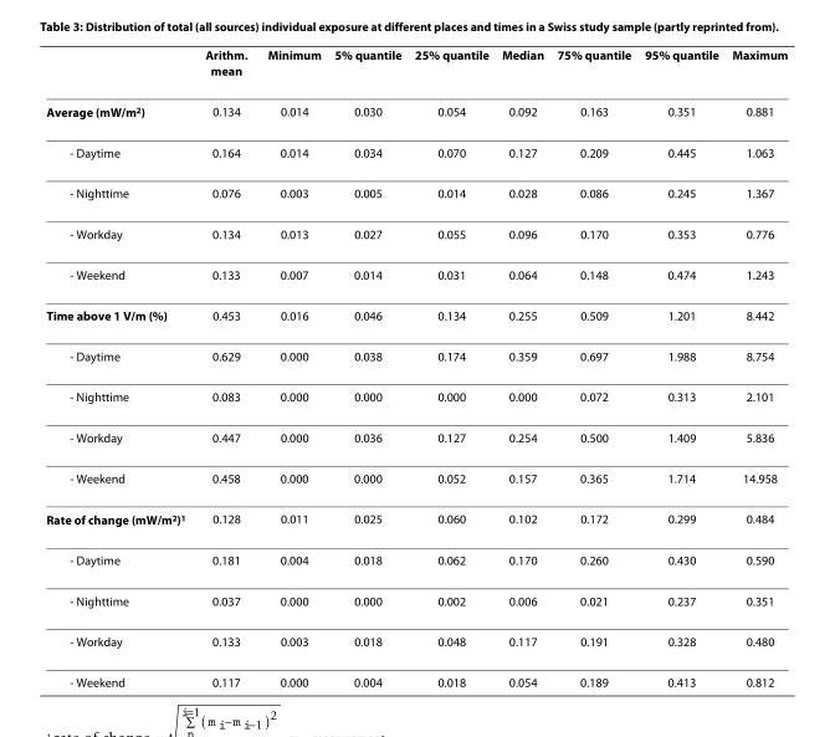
<table><thead><tr><td></td><td>Arithm. mean</td><td>Minimum</td><td>5% quantile</td><td>25% quantile</td><td>Median</td><td>75% quantile</td><td>95% quantile</td><td>Maximum</td></tr></thead><tbody><tr><td>Average (mW/m2)</td><td>0.134</td><td>0.014</td><td>0.030</td><td>0.054</td><td>0.092</td><td>0.163</td><td>0.351</td><td>0.881</td></tr><tr><td>- Daytime</td><td>0.164</td><td>0.014</td><td>0.034</td><td>0.070</td><td>0.127</td><td>0.209</td><td>0.445</td><td>1.063</td></tr><tr><td>- Nighttime</td><td>0.076</td><td>0.003</td><td>0.005</td><td>0.014</td><td>0.028</td><td>0.086</td><td>0.245</td><td>1.367</td></tr><tr><td>- Workday</td><td>0.134</td><td>0.013</td><td>0.027</td><td>0.055</td><td>0.096</td><td>0.170</td><td>0.353</td><td>0.776</td></tr><tr><td>- Weekend</td><td>0.133</td><td>0.007</td><td>0.014</td><td>0.031</td><td>0.064</td><td>0.148</td><td>0.474</td><td>1.243</td></tr><tr><td>Time above 1 V/m (%)</td><td>0.453</td><td>0.016</td><td>0.046</td><td>0.134</td><td>0.255</td><td>0.509</td><td>1.201</td><td>8.442</td></tr><tr><td>- Daytime</td><td>0.629</td><td>0.000</td><td>0.038</td><td>0.174</td><td>0.359</td><td>0.697</td><td>1.988</td><td>8.754</td></tr><tr><td>- Nighttime</td><td>0.083</td><td>0.000</td><td>0.000</td><td>0.000</td><td>0.000</td><td>0.072</td><td>0.313</td><td>2.101</td></tr><tr><td>- Workday</td><td>0.447</td><td>0.000</td><td>0.036</td><td>0.127</td><td>0.254</td><td>0.500</td><td>1.409</td><td>5.836</td></tr><tr><td>- Weekend</td><td>0.458</td><td>0.000</td><td>0.000</td><td>0.052</td><td>0.157</td><td>0.365</td><td>1.714</td><td>14.958</td></tr><tr><td>Rate of change (mW/m2)1</td><td>0.128</td><td>0.011</td><td>0.025</td><td>0.060</td><td>0.102</td><td>0.172</td><td>0.299</td><td>0.484</td></tr><tr><td>- Daytime</td><td>0.181</td><td>0.004</td><td>0.018</td><td>0.062</td><td>0.170</td><td>0.260</td><td>0.430</td><td>0.590</td></tr><tr><td>- Nighttime</td><td>0.037</td><td>0.000</td><td>0.000</td><td>0.002</td><td>0.006</td><td>0.021</td><td>0.237</td><td>0.351</td></tr><tr><td>- Workday</td><td>0.133</td><td>0.003</td><td>0.018</td><td>0.048</td><td>0.117</td><td>0.191</td><td>0.328</td><td>0.480</td></tr><tr><td>- Weekend</td><td>0.117</td><td>0.000</td><td>0.004</td><td>0.018</td><td>0.054</td><td>0.189</td><td>0.413</td><td>0.812</td></tr></tbody></table>